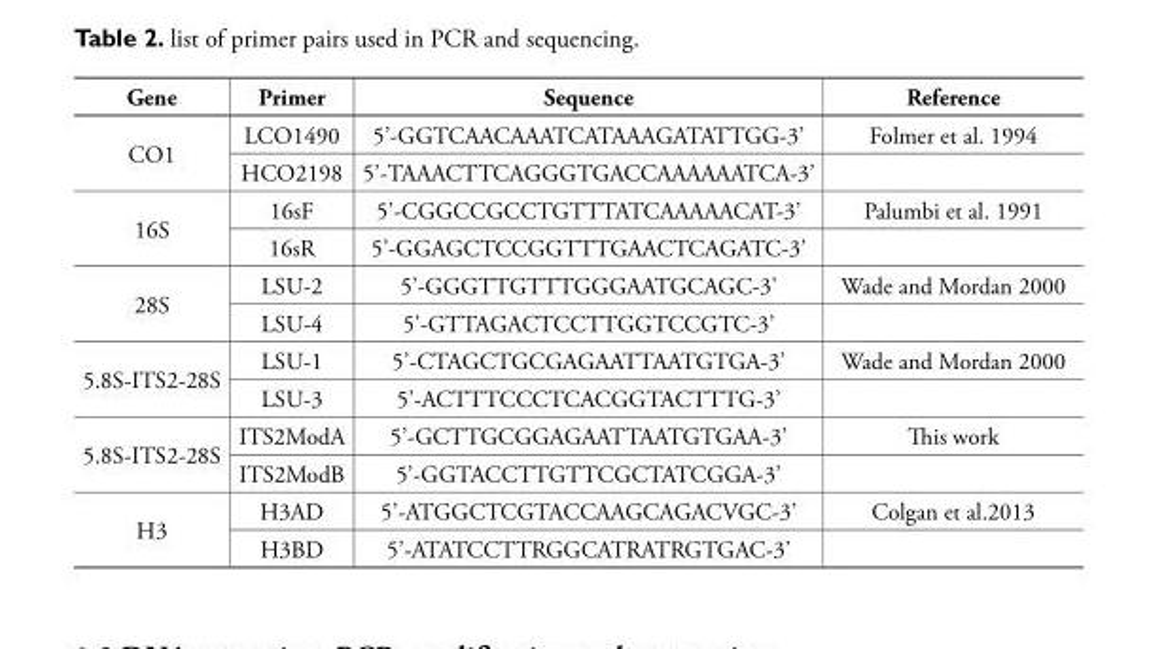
<table><thead><tr><td>Gene</td><td>Primer</td><td>Sequence</td><td>Reference</td></tr></thead><tbody><tr><td rowspan="2">CO1</td><td>LCO1490</td><td>5’-GGTCAACAAATCATAAAGATATTGG-3’</td><td>Folmer et al. 1994</td></tr><tr><td>HCO2198</td><td>5’-TAAACTTCAGGGTGACCAAAAAATCA-3’</td><td></td></tr><tr><td rowspan="2">16S</td><td>16sF</td><td>5’-CGGCCGCCTGTTTATCAAAAACAT-3’</td><td>Palumbi et al. 1991</td></tr><tr><td>16sR</td><td>5’-GGAGCTCCGGTTTGAACTCAGATC-3’</td><td></td></tr><tr><td rowspan="2">28S</td><td>LSU-2</td><td>5’-GGGTTGTTTGGGAATGCAGC-3’</td><td>Wade and Mordan 2000</td></tr><tr><td>LSU-4</td><td>5’-GTTAGACTCCTTGGTCCGTC-3’</td><td></td></tr><tr><td rowspan="2">5.8S-ITS2-28S</td><td>LSU-1</td><td>5’-CTAGCTGCGAGAATTAATGTGA-3’</td><td>Wade and Mordan 2000</td></tr><tr><td>LSU-3</td><td>5’-ACTTTCCCTCACGGTACTTTG-3’</td><td></td></tr><tr><td rowspan="2">5.8S-ITS2-28S</td><td>ITS2ModA</td><td>5’-GCTTGCGGAGAATTAATGTGAA-3’</td><td>This work</td></tr><tr><td>ITS2ModB</td><td>5’-GGTACCTTGTTCGCTATCGGA-3’</td><td></td></tr><tr><td rowspan="2">H3</td><td>H3AD</td><td>5’-ATGGCTCGTACCAAGCAGACVGC-3’</td><td>Colgan et al.2013</td></tr><tr><td>H3BD</td><td>5’-ATATCCTTRGGCATRATRGTGAC-3’</td><td></td></tr></tbody></table>